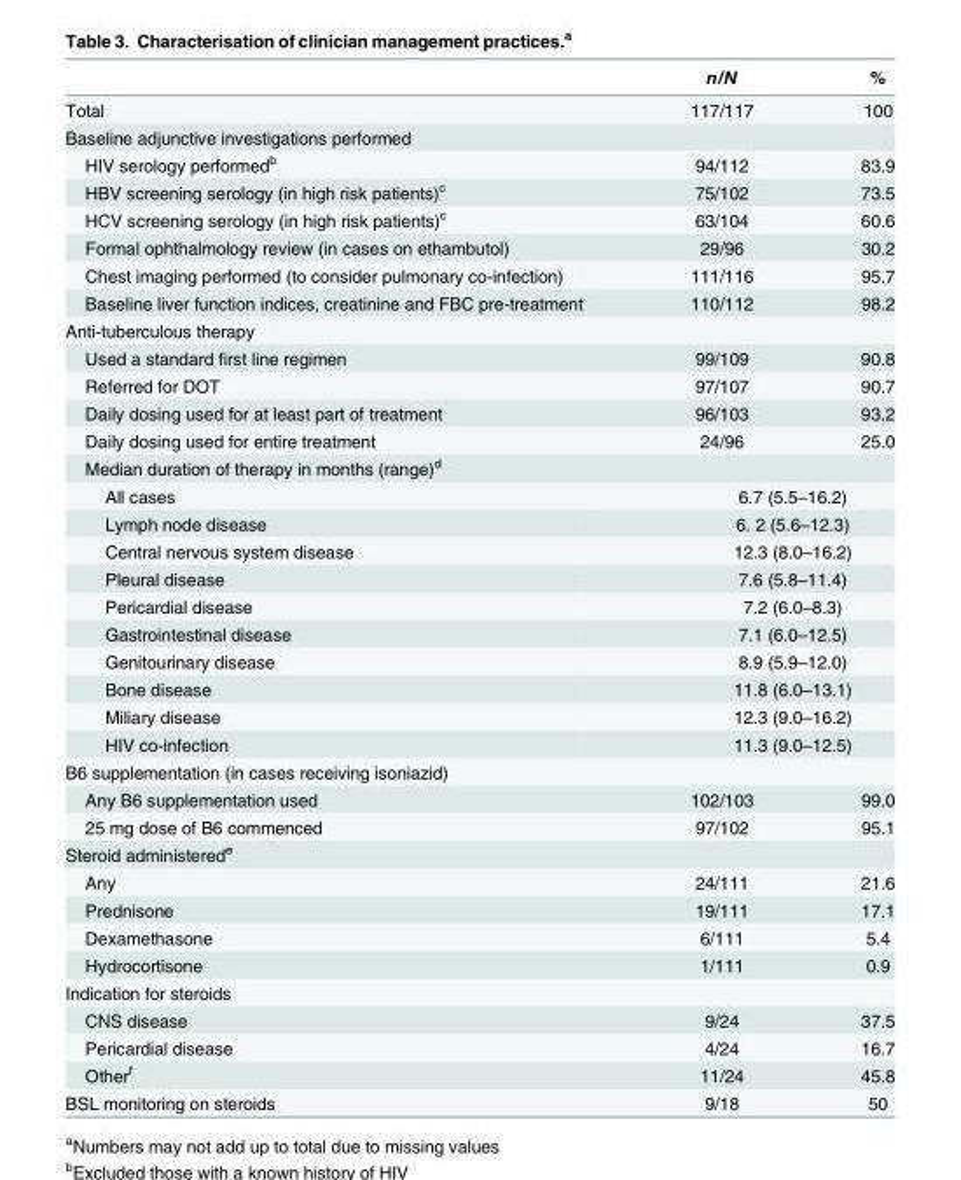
<table><thead><tr><td></td><td>n/N</td><td>%</td></tr></thead><tbody><tr><td>Total</td><td>117/117</td><td>100</td></tr><tr><td colspan="3">Baseline adjunctive investigations performed</td></tr><tr><td>HIV serology performed<sup>b</sup></td><td>94/112</td><td>83.9</td></tr><tr><td>HBV screening serology (in high risk patients)<sup>c</sup></td><td>75/102</td><td>73.5</td></tr><tr><td>HCV screening serology (in high risk patients)<sup>c</sup></td><td>63/104</td><td>60.6</td></tr><tr><td>Formal ophthalmology review (in cases on ethambutol)</td><td>29/96</td><td>30.2</td></tr><tr><td>Chest imaging performed (to consider pulmonary co-infection)</td><td>111/116</td><td>95.7</td></tr><tr><td>Baseline liver function indices, creatinine and FBC pre-treatment</td><td>110/112</td><td>98.2</td></tr><tr><td colspan="3">Anti-tuberculous therapy</td></tr><tr><td>Used a standard first line regimen</td><td>99/109</td><td>90.8</td></tr><tr><td>Referred for DOT</td><td>97/107</td><td>90.7</td></tr><tr><td>Daily dosing used for at least part of treatment</td><td>96/103</td><td>93.2</td></tr><tr><td>Daily dosing used for entire treatment</td><td>24/96</td><td>25.0</td></tr><tr><td colspan="3">Median duration of therapy in months (range)<sup>d</sup></td></tr><tr><td>All cases</td><td colspan="2">6.7 (5.5–16.2)</td></tr><tr><td>Lymph node disease</td><td colspan="2">6. 2 (5.6–12.3)</td></tr><tr><td>Central nervous system disease</td><td colspan="2">12.3 (8.0–16.2)</td></tr><tr><td>Pleural disease</td><td colspan="2">7.6 (5.8–11.4)</td></tr><tr><td>Pericardial disease</td><td colspan="2">7.2 (6.0–8.3)</td></tr><tr><td>Gastrointestinal disease</td><td colspan="2">7.1 (6.0–12.5)</td></tr><tr><td>Genitourinary disease</td><td colspan="2">8.9 (5.9–12.0)</td></tr><tr><td>Bone disease</td><td colspan="2">11.8 (6.0–13.1)</td></tr><tr><td>Miliary disease</td><td colspan="2">12.3 (9.0–16.2)</td></tr><tr><td>HIV co-infection</td><td colspan="2">11.3 (9.0–12.5)</td></tr><tr><td colspan="3">B6 supplementation (in cases receiving isoniazid)</td></tr><tr><td>Any B6 supplementation used</td><td>102/103</td><td>99.0</td></tr><tr><td>25 mg dose of B6 commenced</td><td>97/102</td><td>95.1</td></tr><tr><td colspan="3">Steroid administered<sup>e</sup></td></tr><tr><td>Any</td><td>24/111</td><td>21.6</td></tr><tr><td>Prednisone</td><td>19/111</td><td>17.1</td></tr><tr><td>Dexamethasone</td><td>6/111</td><td>5.4</td></tr><tr><td>Hydrocortisone</td><td>1/111</td><td>0.9</td></tr><tr><td colspan="3">Indication for steroids</td></tr><tr><td>CNS disease</td><td>9/24</td><td>37.5</td></tr><tr><td>Pericardial disease</td><td>4/24</td><td>16.7</td></tr><tr><td>Other<sup>f</sup></td><td>11/24</td><td>45.8</td></tr><tr><td>BSL monitoring on steroids</td><td>9/18</td><td>50</td></tr></tbody></table>